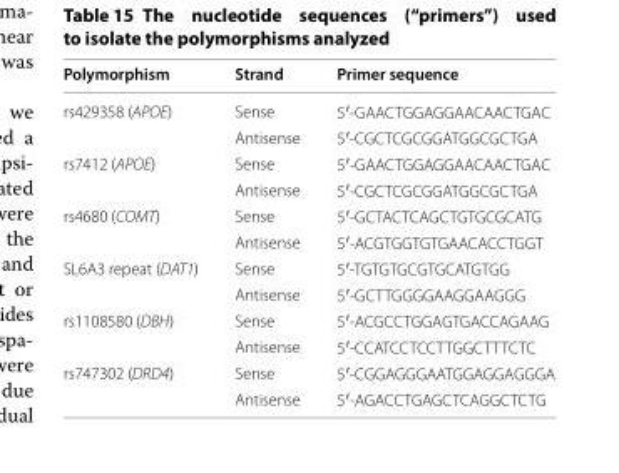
<table><thead><tr><td>Polymorphism</td><td>Strand</td><td>Primer sequence</td></tr></thead><tbody><tr><td rowspan="2">rs429358 (APOE)</td><td>Sense</td><td>5′-GAACTGGAGGAACAACTGAC</td></tr><tr><td>Antisense</td><td>5′-CGCTCGCGGATGGCGCTGA</td></tr><tr><td rowspan="2">rs7412 (APOE)</td><td>Sense</td><td>5′-GAACTGGAGGAACAACTGAC</td></tr><tr><td>Antisense</td><td>5′-CGCTCGCGGATGGCGCTGA</td></tr><tr><td rowspan="2">rs4680 (COMT)</td><td>Sense</td><td>5′-GCTACTCAGCTGTGCGCATG</td></tr><tr><td>Antisense</td><td>5′-ACGTGGTGTGAACACCTGGT</td></tr><tr><td rowspan="2">SL6A3 repeat (DAT1)</td><td>Sense</td><td>5′-TGTGTGCGTGCATGTGG</td></tr><tr><td>Antisense</td><td>5′-GCTTGGGGAAGGAAGGG</td></tr><tr><td rowspan="2">rs1108580 (DBH)</td><td>Sense</td><td>5′-ACGCCTGGAGTGACCAGAAG</td></tr><tr><td>Antisense</td><td>5′-CCATCCTCCTTGGCTTTCTC</td></tr><tr><td rowspan="2">rs747302 (DRD4)</td><td>Sense</td><td>5′-CGGAGGGAATGGAGGAGGGA</td></tr><tr><td>Antisense</td><td>5′-AGACCTGAGCTCAGGCTCTG</td></tr></tbody></table>